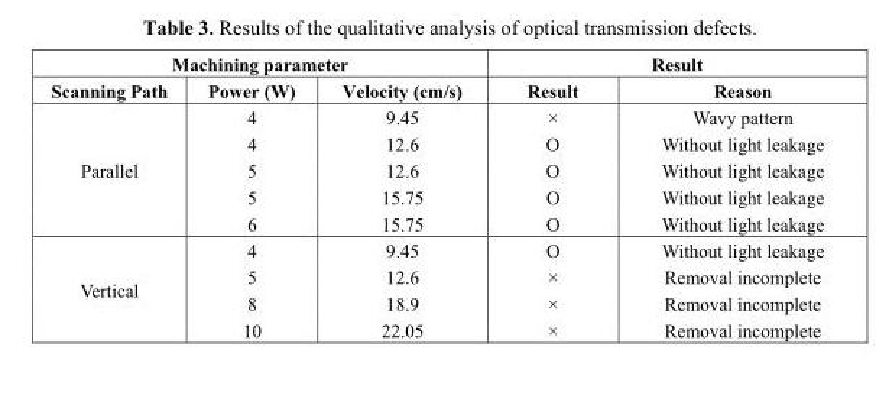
<table><thead><tr><td colspan="3">Machining parameter</td><td colspan="2">Result</td></tr><tr><td>Scanning Path</td><td>Power (W)</td><td>Velocity (cm/s)</td><td>Result</td><td>Reason</td></tr></thead><tbody><tr><td rowspan="5">Parallel</td><td>4</td><td>9.45</td><td>×</td><td>Wavy pattern</td></tr><tr><td>4</td><td>12.6</td><td>O</td><td>Without light leakage</td></tr><tr><td>5</td><td>12.6</td><td>O</td><td>Without light leakage</td></tr><tr><td>5</td><td>15.75</td><td>O</td><td>Without light leakage</td></tr><tr><td>6</td><td>15.75</td><td>O</td><td>Without light leakage</td></tr><tr><td rowspan="4">Vertical</td><td>4</td><td>9.45</td><td>O</td><td>Without light leakage</td></tr><tr><td>5</td><td>12.6</td><td>×</td><td>Removal incomplete</td></tr><tr><td>8</td><td>18.9</td><td>×</td><td>Removal incomplete</td></tr><tr><td>10</td><td>22.05</td><td>×</td><td>Removal incomplete</td></tr></tbody></table>